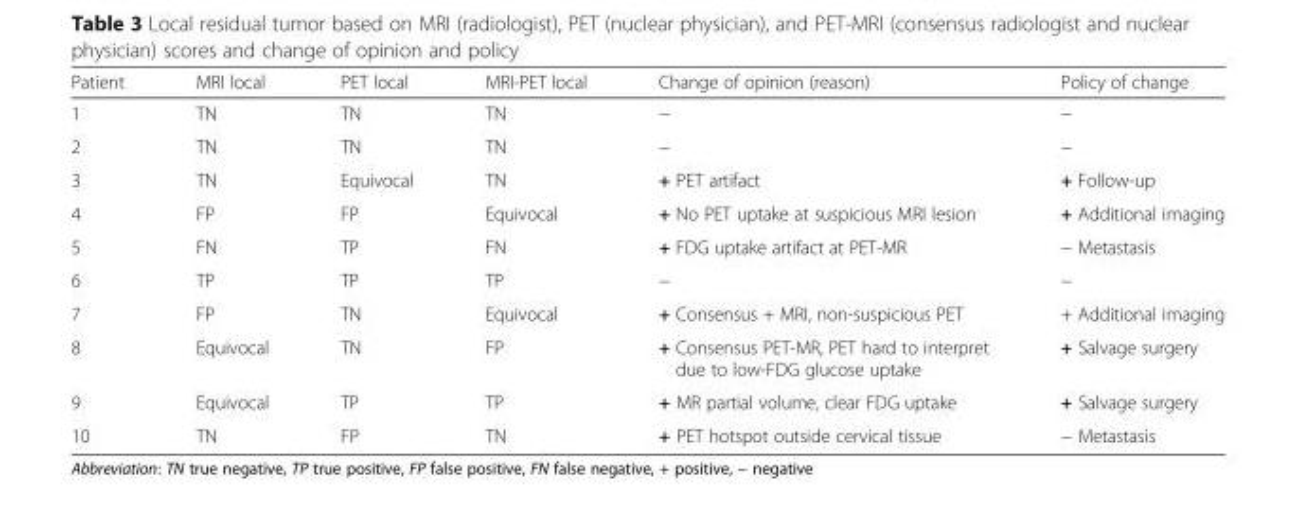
<table><thead><tr><td>Patient</td><td>MRI local</td><td>PET local</td><td>MRI-PET local</td><td>Change of opinion (reason)</td><td>Policy of change</td></tr></thead><tbody><tr><td>1</td><td>TN</td><td>TN</td><td>TN</td><td>−</td><td>−</td></tr><tr><td>2</td><td>TN</td><td>TN</td><td>TN</td><td>−</td><td>−</td></tr><tr><td>3</td><td>TN</td><td>Equivocal</td><td>TN</td><td>+ PET artifact</td><td>+ Follow-up</td></tr><tr><td>4</td><td>FP</td><td>FP</td><td>Equivocal</td><td>+ No PET uptake at suspicious MRI lesion</td><td>+ Additional imaging</td></tr><tr><td>5</td><td>FN</td><td>TP</td><td>FN</td><td>+ FDG uptake artifact at PET-MR</td><td>− Metastasis</td></tr><tr><td>6</td><td>TP</td><td>TP</td><td>TP</td><td>−</td><td>−</td></tr><tr><td>7</td><td>FP</td><td>TN</td><td>Equivocal</td><td>+ Consensus + MRI, non-suspicious PET</td><td>+ Additional imaging</td></tr><tr><td>8</td><td>Equivocal</td><td>TN</td><td>FP</td><td>+ Consensus PET-MR, PET hard to interpret due to low-FDG glucose uptake</td><td>+ Salvage surgery</td></tr><tr><td>9</td><td>Equivocal</td><td>TP</td><td>TP</td><td>+ MR partial volume, clear FDG uptake</td><td>+ Salvage surgery</td></tr><tr><td>10</td><td>TN</td><td>FP</td><td>TN</td><td>+ PET hotspot outside cervical tissue</td><td>− Metastasis</td></tr></tbody></table>